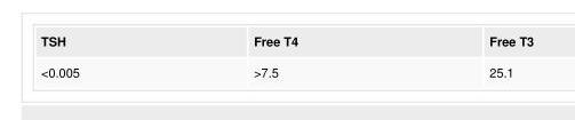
<table><tbody><tr><td>TSH</td><td>Free T4</td><td>Free T3</td></tr><tr><td>&lt;0.005</td><td>&gt;7.5</td><td>25.1</td></tr></tbody></table>